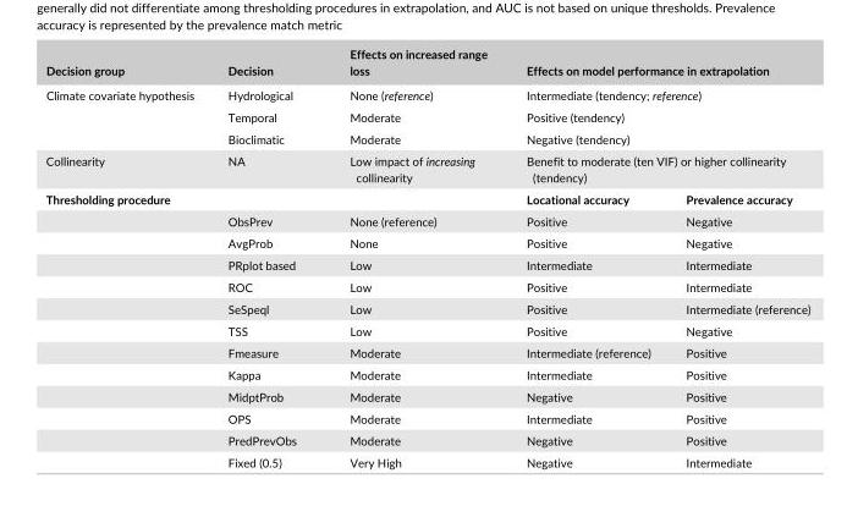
<table><thead><tr><td>Decision group</td><td>Decision</td><td>Effects on increased range loss</td><td colspan="2">Effects on model performance in extrapolation</td></tr></thead><tbody><tr><td rowspan="3">Climate covariate hypothesis</td><td>Hydrological</td><td>None (reference)</td><td colspan="2">Intermediate (tendency; reference)</td></tr><tr><td>Temporal</td><td>Moderate</td><td colspan="2">Positive (tendency)</td></tr><tr><td>Bioclimatic</td><td>Moderate</td><td colspan="2">Negative (tendency)</td></tr><tr><td>Collinearity</td><td>NA</td><td>Low impact of increasing collinearity</td><td colspan="2">Benefit to moderate (ten VIF) or higher collinearity (tendency)</td></tr><tr><td rowspan="13">Thresholding procedure</td><td></td><td></td><td>Locational accuracy</td><td>Prevalence accuracy</td></tr><tr><td>ObsPrev</td><td>None (reference)</td><td>Positive</td><td>Negative</td></tr><tr><td>AvgProb</td><td>None</td><td>Positive</td><td>Negative</td></tr><tr><td>PRplot based</td><td>Low</td><td>Intermediate</td><td>Intermediate</td></tr><tr><td>ROC</td><td>Low</td><td>Positive</td><td>Intermediate</td></tr><tr><td>SeSpeql</td><td>Low</td><td>Positive</td><td>Intermediate (reference)</td></tr><tr><td>TSS</td><td>Low</td><td>Positive</td><td>Negative</td></tr><tr><td>Fmeasure</td><td>Moderate</td><td>Intermediate (reference)</td><td>Positive</td></tr><tr><td>Kappa</td><td>Moderate</td><td>Intermediate</td><td>Positive</td></tr><tr><td>MidptProb</td><td>Moderate</td><td>Negative</td><td>Positive</td></tr><tr><td>OPS</td><td>Moderate</td><td>Intermediate</td><td>Positive</td></tr><tr><td>PredPrevObs</td><td>Moderate</td><td>Negative</td><td>Positive</td></tr><tr><td>Fixed (0.5)</td><td>Very High</td><td>Negative</td><td>Intermediate</td></tr></tbody></table>